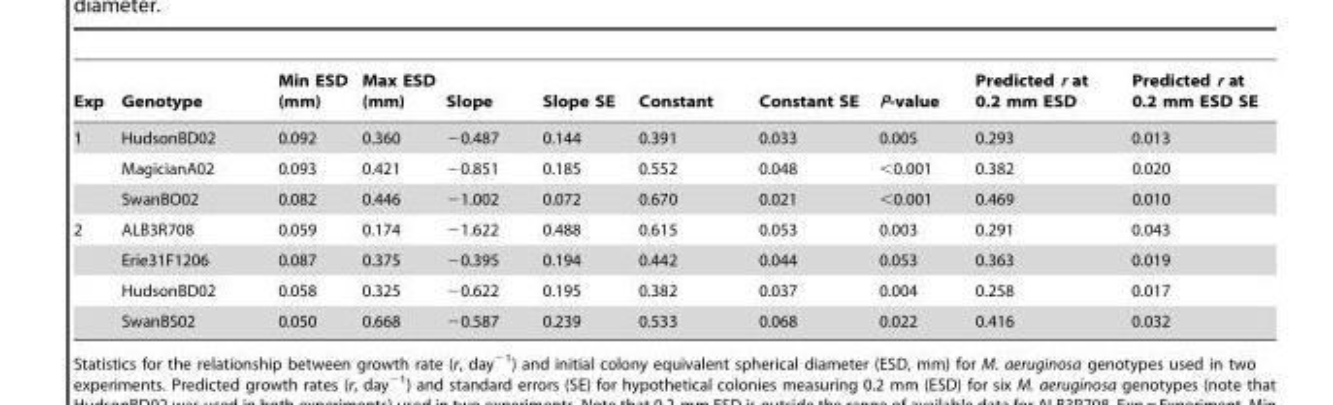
<table><thead><tr><td>Exp</td><td>Genotype</td><td>Min ESD (mm)</td><td>Max ESD (mm)</td><td>Slope</td><td>Slope SE</td><td>Constant</td><td>Constant SE</td><td>P-value</td><td>Predicted r at 0.2 mm ESD</td><td>Predicted r at 0.2 mm ESD SE</td></tr></thead><tbody><tr><td rowspan="3">1</td><td>HudsonBD02</td><td>0.092</td><td>0.360</td><td>−0.487</td><td>0.144</td><td>0.391</td><td>0.033</td><td>0.005</td><td>0.293</td><td>0.013</td></tr><tr><td>MagicianA02</td><td>0.093</td><td>0.421</td><td>−0.851</td><td>0.185</td><td>0.552</td><td>0.048</td><td>&lt;0.001</td><td>0.382</td><td>0.020</td></tr><tr><td>SwanBO02</td><td>0.082</td><td>0.446</td><td>−1.002</td><td>0.072</td><td>0.670</td><td>0.021</td><td>&lt;0.001</td><td>0.469</td><td>0.010</td></tr><tr><td rowspan="4">2</td><td>ALB3R708</td><td>0.059</td><td>0.174</td><td>−1.622</td><td>0.488</td><td>0.615</td><td>0.053</td><td>0.003</td><td>0.291</td><td>0.043</td></tr><tr><td>Erie31F1206</td><td>0.087</td><td>0.375</td><td>−0.395</td><td>0.194</td><td>0.442</td><td>0.044</td><td>0.053</td><td>0.363</td><td>0.019</td></tr><tr><td>HudsonBD02</td><td>0.058</td><td>0.325</td><td>−0.622</td><td>0.195</td><td>0.382</td><td>0.037</td><td>0.004</td><td>0.258</td><td>0.017</td></tr><tr><td>SwanBS02</td><td>0.050</td><td>0.668</td><td>−0.587</td><td>0.239</td><td>0.533</td><td>0.068</td><td>0.022</td><td>0.416</td><td>0.032</td></tr></tbody></table>